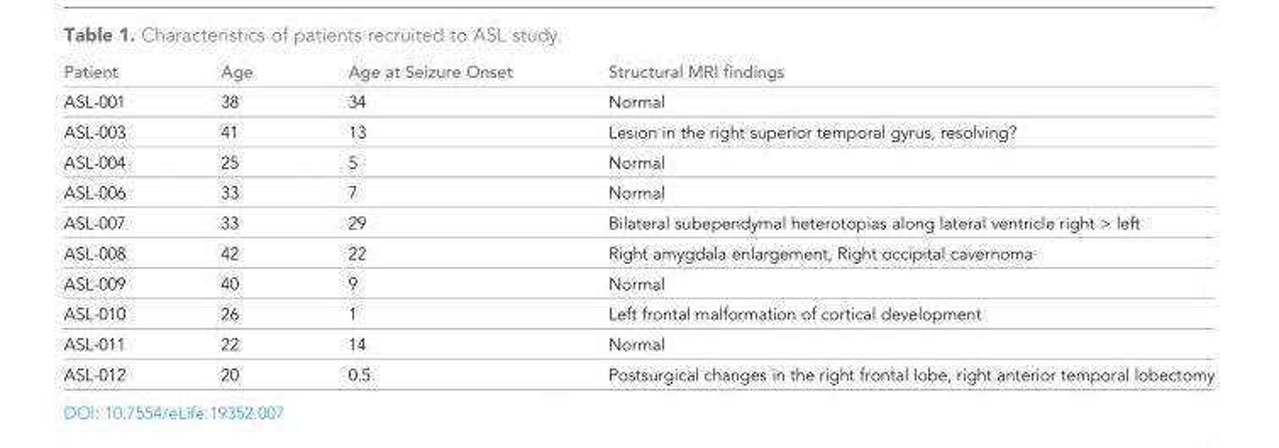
<table><thead><tr><td>Patient</td><td>Age</td><td>Age at Seizure Onset</td><td>Structural MRI findings</td></tr></thead><tbody><tr><td>ASL-001</td><td>38</td><td>34</td><td>Normal</td></tr><tr><td>ASL-003</td><td>41</td><td>13</td><td>Lesion in the right superior temporal gyrus, resolving?</td></tr><tr><td>ASL-004</td><td>25</td><td>5</td><td>Normal</td></tr><tr><td>ASL-006</td><td>33</td><td>7</td><td>Normal</td></tr><tr><td>ASL-007</td><td>33</td><td>29</td><td>Bilateral subependymal heterotopias along lateral ventricle right &gt; left</td></tr><tr><td>ASL-008</td><td>42</td><td>22</td><td>Right amygdala enlargement, Right occipital cavernoma</td></tr><tr><td>ASL-009</td><td>40</td><td>9</td><td>Normal</td></tr><tr><td>ASL-010</td><td>26</td><td>1</td><td>Left frontal malformation of cortical development</td></tr><tr><td>ASL-011</td><td>22</td><td>14</td><td>Normal</td></tr><tr><td>ASL-012</td><td>20</td><td>0.5</td><td>Postsurgical changes in the right frontal lobe, right anterior temporal lobectomy</td></tr></tbody></table>